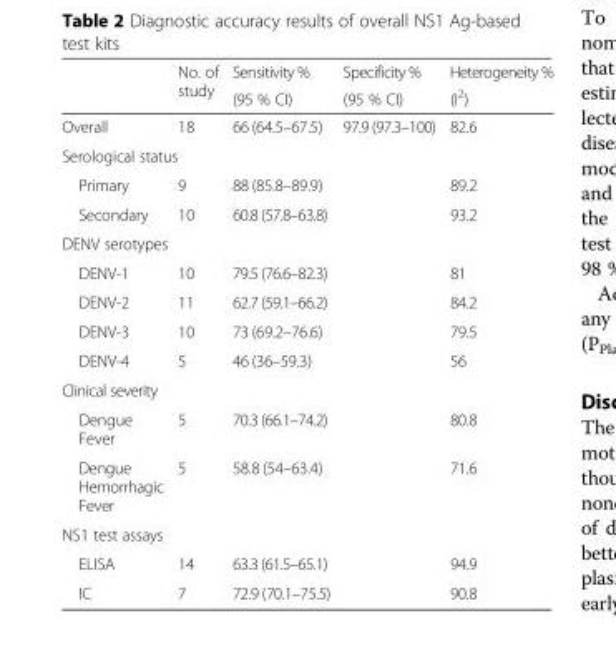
<table><thead><tr><td rowspan="2"></td><td rowspan="2">No. of study</td><td rowspan="2">Sensitivity % (95 % CI)</td><td rowspan="2">Specificity % (95 % CI)</td><td rowspan="2">Heterogeneity % (I<sup>2</sup>)</td></tr><tr></tr></thead><tbody><tr><td>Overall</td><td>18</td><td>66 (64.5–67.5)</td><td>97.9 (97.3–100)</td><td>82.6</td></tr><tr><td colspan="5">Serological status</td></tr><tr><td>Primary</td><td>9</td><td>88 (85.8–89.9)</td><td></td><td>89.2</td></tr><tr><td>Secondary</td><td>10</td><td>60.8 (57.8–63.8)</td><td></td><td>93.2</td></tr><tr><td colspan="5">DENV serotypes</td></tr><tr><td>DENV-1</td><td>10</td><td>79.5 (76.6–82.3)</td><td></td><td>81</td></tr><tr><td>DENV-2</td><td>11</td><td>62.7 (59.1–66.2)</td><td></td><td>84.2</td></tr><tr><td>DENV-3</td><td>10</td><td>73 (69.2–76.6)</td><td></td><td>79.5</td></tr><tr><td>DENV-4</td><td>5</td><td>46 (36–59.3)</td><td></td><td>56</td></tr><tr><td colspan="5">Clinical severity</td></tr><tr><td>Dengue Fever</td><td>5</td><td>70.3 (66.1–74.2)</td><td></td><td>80.8</td></tr><tr><td>Dengue Hemorrhagic Fever</td><td>5</td><td>58.8 (54–63.4)</td><td></td><td>71.6</td></tr><tr><td colspan="5">NS1 test assays</td></tr><tr><td>ELISA</td><td>14</td><td>63.3 (61.5–65.1)</td><td></td><td>94.9</td></tr><tr><td>IC</td><td>7</td><td>72.9 (70.1–75.5)</td><td></td><td>90.8</td></tr></tbody></table>